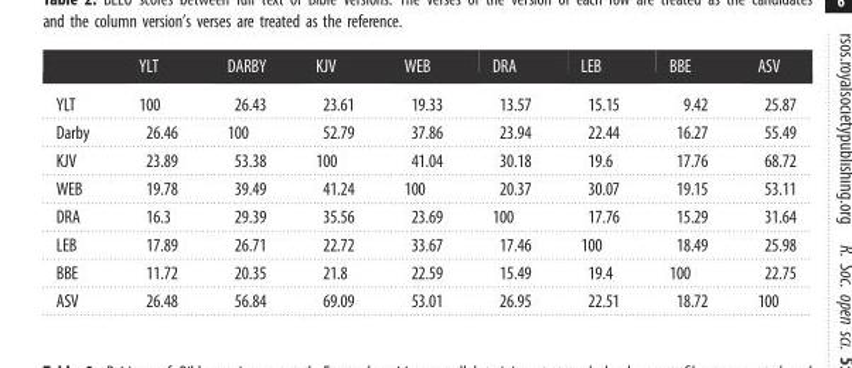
<table><thead><tr><td></td><td>YLT</td><td>DARBY</td><td>KJV</td><td>WEB</td><td>DRA</td><td>LEB</td><td>BBE</td><td>ASV</td></tr></thead><tbody><tr><td>YLT</td><td>100</td><td>26.43</td><td>23.61</td><td>19.33</td><td>13.57</td><td>15.15</td><td>9.42</td><td>25.87</td></tr><tr><td>Darby</td><td>26.46</td><td>100</td><td>52.79</td><td>37.86</td><td>23.94</td><td>22.44</td><td>16.27</td><td>55.49</td></tr><tr><td>KJV</td><td>23.89</td><td>53.38</td><td>100</td><td>41.04</td><td>30.18</td><td>19.6</td><td>17.76</td><td>68.72</td></tr><tr><td>WEB</td><td>19.78</td><td>39.49</td><td>41.24</td><td>100</td><td>20.37</td><td>30.07</td><td>19.15</td><td>53.11</td></tr><tr><td>DRA</td><td>16.3</td><td>29.39</td><td>35.56</td><td>23.69</td><td>100</td><td>17.76</td><td>15.29</td><td>31.64</td></tr><tr><td>LEB</td><td>17.89</td><td>26.71</td><td>22.72</td><td>33.67</td><td>17.46</td><td>100</td><td>18.49</td><td>25.98</td></tr><tr><td>BBE</td><td>11.72</td><td>20.35</td><td>21.8</td><td>22.59</td><td>15.49</td><td>19.4</td><td>100</td><td>22.75</td></tr><tr><td>ASV</td><td>26.48</td><td>56.84</td><td>69.09</td><td>53.01</td><td>26.95</td><td>22.51</td><td>18.72</td><td>100</td></tr></tbody></table>